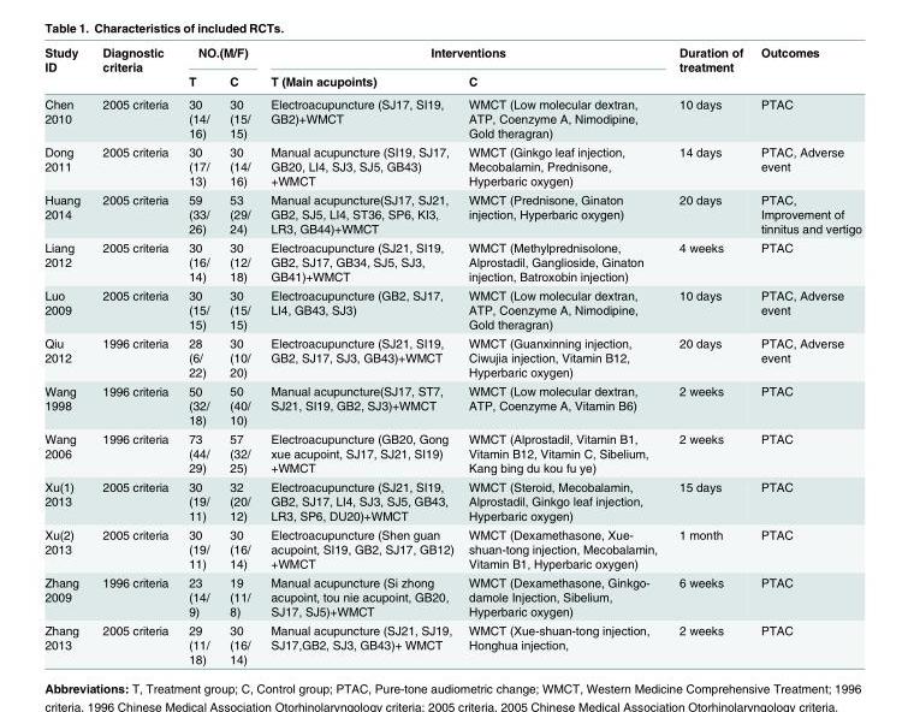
<table><thead><tr><td rowspan="2">Study ID</td><td rowspan="2">Diagnostic criteria</td><td colspan="2">NO.(M/F)</td><td colspan="2">Interventions</td><td rowspan="2">Duration of treatment</td><td rowspan="2">Outcomes</td></tr><tr><td>T</td><td>C</td><td>T (Main acupoints)</td><td>C</td></tr></thead><tbody><tr><td>Chen 2010</td><td>2005 criteria</td><td>30 (14/ 16)</td><td>30 (15/ 15)</td><td>Electroacupuncture (SJ17, SI19, GB2)+WMCT</td><td>WMCT (Low molecular dextran, ATP, Coenzyme A, Nimodipine, Gold theragran)</td><td>10 days</td><td>PTAC</td></tr><tr><td>Dong 2011</td><td>2005 criteria</td><td>30 (17/ 13)</td><td>30 (14/ 16)</td><td>Manual acupuncture (SI19, SJ17, GB20, LI4, SJ3, SJ5, GB43) +WMCT</td><td>WMCT (Ginkgo leaf injection, Mecobalamin, Prednisone, Hyperbaric oxygen)</td><td>14 days</td><td>PTAC, Adverse event</td></tr><tr><td>Huang 2014</td><td>2005 criteria</td><td>59 (33/ 26)</td><td>53 (29/ 24)</td><td>Manual acupuncture(SJ17, SJ21, GB2, SJ5, LI4, ST36, SP6, KI3, LR3, GB44)+WMCT</td><td>WMCT (Prednisone, Ginaton injection, Hyperbaric oxygen)</td><td>20 days</td><td>PTAC, Improvement of tinnitus and vertigo</td></tr><tr><td>Liang 2012</td><td>2005 criteria</td><td>30 (16/ 14)</td><td>30 (12/ 18)</td><td>Electroacupuncture (SJ21, SI19, GB2, SJ17, GB34, SJ5, SJ3, GB41)+WMCT</td><td>WMCT (Methylprednisolone, Alprostadil, Ganglioside, Ginaton injection, Batroxobin injection)</td><td>4 weeks</td><td>PTAC</td></tr><tr><td>Luo 2009</td><td>2005 criteria</td><td>30 (15/ 15)</td><td>30 (15/ 15)</td><td>Electroacupuncture (GB2, SJ17, LI4, GB43, SJ3)</td><td>WMCT (Low molecular dextran, ATP, Coenzyme A, Nimodipine, Gold theragran)</td><td>10 days</td><td>PTAC, Adverse event</td></tr><tr><td>Qiu 2012</td><td>1996 criteria</td><td>28 (6/ 22)</td><td>30 (10/ 20)</td><td>Electroacupuncture (SJ21, SI19, GB2, SJ17, SJ3, GB43)+WMCT</td><td>WMCT (Guanxinning injection, Ciwujia injection, Vitamin B12, Hyperbaric oxygen)</td><td>20 days</td><td>PTAC, Adverse event</td></tr><tr><td>Wang 1998</td><td>1996 criteria</td><td>50 (32/ 18)</td><td>50 (40/ 10)</td><td>Manual acupuncture(SJ17, ST7, SJ21, SI19, GB2, SJ3)+WMCT</td><td>WMCT (Low molecular dextran, ATP, Coenzyme A, Vitamin B6)</td><td>2 weeks</td><td>PTAC</td></tr><tr><td>Wang 2006</td><td>1996 criteria</td><td>73 (44/ 29)</td><td>57 (32/ 25)</td><td>Electroacupuncture (GB20, Gong xue acupoint, SJ17, SJ21, SI19) +WMCT</td><td>WMCT (Alprostadil, Vitamin B1, Vitamin B12, Vitamin C, Sibelium, Kang bing du kou fu ye)</td><td>2 weeks</td><td>PTAC</td></tr><tr><td>Xu(1) 2013</td><td>2005 criteria</td><td>30 (19/ 11)</td><td>32 (20/ 12)</td><td>Electroacupuncture (SJ21, SI19, GB2, SJ17, LI4, SJ3, SJ5, GB43, LR3, SP6, DU20)+WMCT</td><td>WMCT (Steroid, Mecobalamin, Alprostadil, Ginkgo leaf injection, Hyperbaric oxygen)</td><td>15 days</td><td>PTAC</td></tr><tr><td>Xu(2) 2013</td><td>2005 criteria</td><td>30 (19/ 11)</td><td>30 (16/ 14)</td><td>Electroacupuncture (Shen guan acupoint, SI19, GB2, SJ17, GB12) +WMCT</td><td>WMCT (Dexamethasone, Xue- shuan-tong injection, Mecobalamin, Vitamin B1, Hyperbaric oxygen)</td><td>1 month</td><td>PTAC</td></tr><tr><td>Zhang 2009</td><td>1996 criteria</td><td>23 (14/ 9)</td><td>19 (11/ 8)</td><td>Manual acupuncture (Si zhong acupoint, tou nie acupoint, GB20, SJ17, SJ5)+WMCT</td><td>WMCT (Dexamethasone, Ginkgo- damole Injection, Sibelium, Hyperbaric oxygen)</td><td>6 weeks</td><td>PTAC</td></tr><tr><td>Zhang 2013</td><td>2005 criteria</td><td>29 (11/ 18)</td><td>30 (16/ 14)</td><td>Manual acupuncture (SJ21, SJ19, SJ17,GB2, SJ3, GB43)+ WMCT</td><td>WMCT (Xue-shuan-tong injection, Honghua injection,</td><td>2 weeks</td><td>PTAC</td></tr></tbody></table>